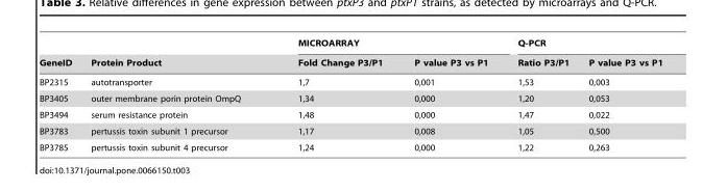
<table><thead><tr><td rowspan="2">GeneID</td><td rowspan="2">Protein Product</td><td colspan="2">MICROARRAY</td><td colspan="2">Q-PCR</td></tr><tr><td>Fold Change P3/P1</td><td>P value P3 vs P1</td><td>Ratio P3/P1</td><td>P value P3 vs P1</td></tr></thead><tbody><tr><td>BP2315</td><td>autotransporter</td><td>1,7</td><td>0,001</td><td>1,53</td><td>0,003</td></tr><tr><td>BP3405</td><td>outer membrane porin protein OmpQ</td><td>1,34</td><td>0,000</td><td>1,20</td><td>0,053</td></tr><tr><td>BP3494</td><td>serum resistance protein</td><td>1,48</td><td>0,000</td><td>1,47</td><td>0,022</td></tr><tr><td>BP3783</td><td>pertussis toxin subunit 1 precursor</td><td>1,17</td><td>0,008</td><td>1,05</td><td>0,500</td></tr><tr><td>BP3785</td><td>pertussis toxin subunit 4 precursor</td><td>1,24</td><td>0,000</td><td>1,22</td><td>0,263</td></tr></tbody></table>